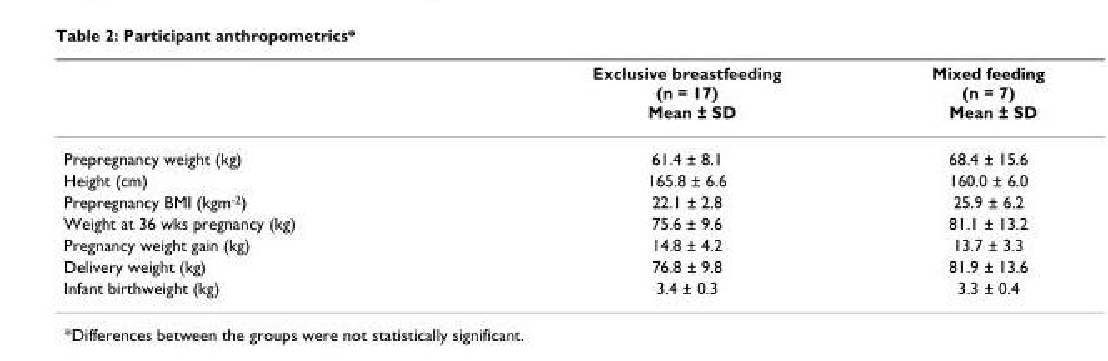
<table><thead><tr><td></td><td>Exclusive breastfeeding (n = 17) Mean ± SD</td><td>Mixed feeding (n = 7) Mean ± SD</td></tr></thead><tbody><tr><td>Prepregnancy weight (kg)</td><td>61.4 ± 8.1</td><td>68.4 ± 15.6</td></tr><tr><td>Height (cm)</td><td>165.8 ± 6.6</td><td>160.0 ± 6.0</td></tr><tr><td>Prepregnancy BMI (kgm<sup>-2</sup>)</td><td>22.1 ± 2.8</td><td>25.9 ± 6.2</td></tr><tr><td>Weight at 36 wks pregnancy (kg)</td><td>75.6 ± 9.6</td><td>81.1 ± 13.2</td></tr><tr><td>Pregnancy weight gain (kg)</td><td>14.8 ± 4.2</td><td>13.7 ± 3.3</td></tr><tr><td>Delivery weight (kg)</td><td>76.8 ± 9.8</td><td>81.9 ± 13.6</td></tr><tr><td>Infant birthweight (kg)</td><td>3.4 ± 0.3</td><td>3.3 ± 0.4</td></tr></tbody></table>